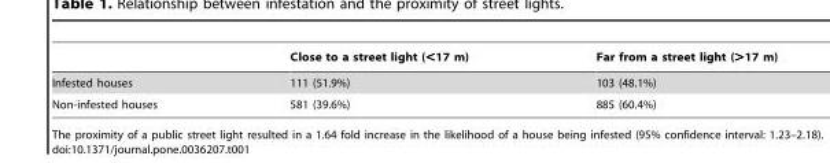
<table><thead><tr><td></td><td>Close to a street light (&lt;17 m)</td><td>Far from a street light (&gt;17 m)</td></tr></thead><tbody><tr><td>Infested houses</td><td>111 (51.9%)</td><td>103 (48.1%)</td></tr><tr><td>Non-infested houses</td><td>581 (39.6%)</td><td>885 (60.4%)</td></tr></tbody></table>